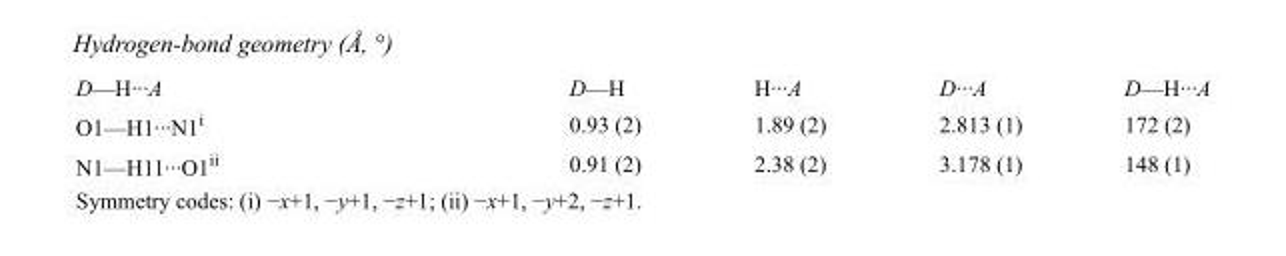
<table><tbody><tr><td>D—H···A</td><td>D—H</td><td>H···A</td><td>D···A</td><td>D—H···A</td></tr><tr><td>O1—H1···N1<sup>i</sup></td><td>0.93 (2)</td><td>1.89 (2)</td><td>2.813 (1)</td><td>172 (2)</td></tr><tr><td>N1—H11···O1<sup>ii</sup></td><td>0.91 (2)</td><td>2.38 (2)</td><td>3.178 (1)</td><td>148 (1)</td></tr></tbody></table>